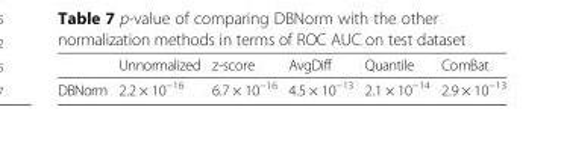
<table><thead><tr><td></td><td>Unnormalized</td><td>z-score</td><td>AvgDiff</td><td>Quantile</td><td>ComBat</td></tr></thead><tbody><tr><td>DBNorm</td><td>2.2 × 10<sup>−16</sup></td><td>6.7 × 10<sup>−16</sup></td><td>4.5 × 10<sup>−13</sup></td><td>2.1 × 10<sup>−14</sup></td><td>2.9 × 10<sup>−13</sup></td></tr></tbody></table>